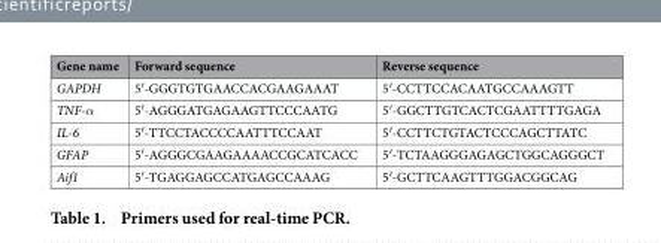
<table><tbody><tr><td>Gene name</td><td>Forward sequence</td><td>Reverse sequence</td></tr><tr><td>GAPDH</td><td>5′ -GGGTGTGAACCACGAAGAAAT</td><td>5′ -CCTTCCACAATGCCAAAGTT</td></tr><tr><td>TNF-α</td><td>5′ -AGGGATGAGAAGTTCCCAATG</td><td>5′ -GGCTTGTCACTCGAATTTTGAGA</td></tr><tr><td>IL-6</td><td>5′ -TTCCTACCCCAATTTCCAAT</td><td>5′ -CCTTCTGTACTCCCAGCTTATC</td></tr><tr><td>GFAP</td><td>5′ -AGGGCGAAGAAAACCGCATCACC</td><td>5′ -TCTAAGGGAGAGCTGGCAGGGCT</td></tr><tr><td>Aif1</td><td>5′ -TGAGGAGCCATGAGCCAAAG</td><td>5′ -GCTTCAAGTTTGGACGGCAG</td></tr></tbody></table>